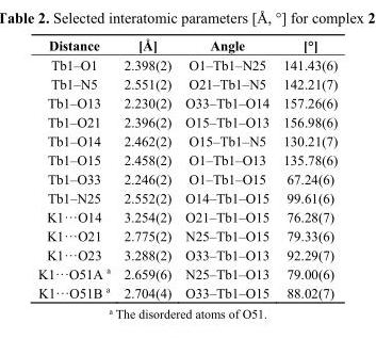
<table><thead><tr><td>Distance</td><td>[Å]</td><td>Angle</td><td>[°]</td></tr></thead><tbody><tr><td>Tb1–O1</td><td>2.398(2)</td><td>O1–Tb1–N25</td><td>141.43(6)</td></tr><tr><td>Tb1–N5</td><td>2.551(2)</td><td>O21–Tb1–N5</td><td>142.21(7)</td></tr><tr><td>Tb1–O13</td><td>2.230(2)</td><td>O33–Tb1–O14</td><td>157.26(6)</td></tr><tr><td>Tb1–O21</td><td>2.396(2)</td><td>O15–Tb1–O13</td><td>156.98(6)</td></tr><tr><td>Tb1–O14</td><td>2.462(2)</td><td>O15–Tb1–N5</td><td>130.21(7)</td></tr><tr><td>Tb1–O15</td><td>2.458(2)</td><td>O1–Tb1–O13</td><td>135.78(6)</td></tr><tr><td>Tb1–O33</td><td>2.246(2)</td><td>O1–Tb1–O15</td><td>67.24(6)</td></tr><tr><td>Tb1–N25</td><td>2.552(2)</td><td>O14–Tb1–O15</td><td>99.61(6)</td></tr><tr><td>K1···O14</td><td>3.254(2)</td><td>O21–Tb1–O15</td><td>76.28(7)</td></tr><tr><td>K1···O21</td><td>2.775(2)</td><td>N25–Tb1–O15</td><td>79.33(6)</td></tr><tr><td>K1···O23</td><td>3.288(2)</td><td>O33–Tb1–O13</td><td>92.29(7)</td></tr><tr><td>K1···O51A <sup>a</sup></td><td>2.659(6)</td><td>N25–Tb1–O13</td><td>79.00(6)</td></tr><tr><td>K1···O51B <sup>a</sup></td><td>2.704(4)</td><td>O33–Tb1–O15</td><td>88.02(7)</td></tr></tbody></table>